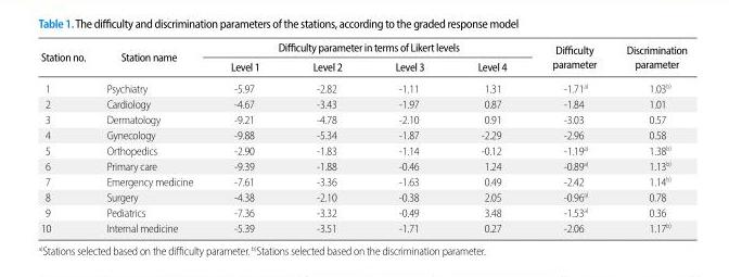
<table><thead><tr><td rowspan="2">Station no.</td><td rowspan="2">Station name</td><td colspan="4">Difficulty parameter in terms of Likert levels</td><td rowspan="2">Difficulty parameter</td><td rowspan="2">Discrimination parameter</td></tr><tr><td>Level 1</td><td>Level 2</td><td>Level 3</td><td>Level 4</td></tr></thead><tbody><tr><td>1</td><td>Psychiatry</td><td>-5.97</td><td>-2.82</td><td>-1.11</td><td>1.31</td><td>-1.71<sup>a)</sup></td><td>1.03<sup>b)</sup></td></tr><tr><td>2</td><td>Cardiology</td><td>-4.67</td><td>-3.43</td><td>-1.97</td><td>0.87</td><td>-1.84</td><td>1.01</td></tr><tr><td>3</td><td>Dermatology</td><td>-9.21</td><td>-4.78</td><td>-2.10</td><td>0.91</td><td>-3.03</td><td>0.57</td></tr><tr><td>4</td><td>Gynecology</td><td>-9.88</td><td>-5.34</td><td>-1.87</td><td>-2.29</td><td>-2.96</td><td>0.58</td></tr><tr><td>5</td><td>Orthopedics</td><td>-2.90</td><td>-1.83</td><td>-1.14</td><td>-0.12</td><td>-1.19<sup>a)</sup></td><td>1.38<sup>b)</sup></td></tr><tr><td>6</td><td>Primary care</td><td>-9.39</td><td>-1.88</td><td>-0.46</td><td>1.24</td><td>-0.89<sup>a)</sup></td><td>1.13<sup>b)</sup></td></tr><tr><td>7</td><td>Emergency medicine</td><td>-7.61</td><td>-3.36</td><td>-1.63</td><td>0.49</td><td>-2.42</td><td>1.14<sup>b)</sup></td></tr><tr><td>8</td><td>Surgery</td><td>-4.38</td><td>-2.10</td><td>-0.38</td><td>2.05</td><td>-0.96<sup>a)</sup></td><td>0.78</td></tr><tr><td>9</td><td>Pediatrics</td><td>-7.36</td><td>-3.32</td><td>-0.49</td><td>3.48</td><td>-1.53<sup>a)</sup></td><td>0.36</td></tr><tr><td>10</td><td>Internal medicine</td><td>-5.39</td><td>-3.51</td><td>-1.71</td><td>0.27</td><td>-2.06</td><td>1.17<sup>b)</sup></td></tr></tbody></table>